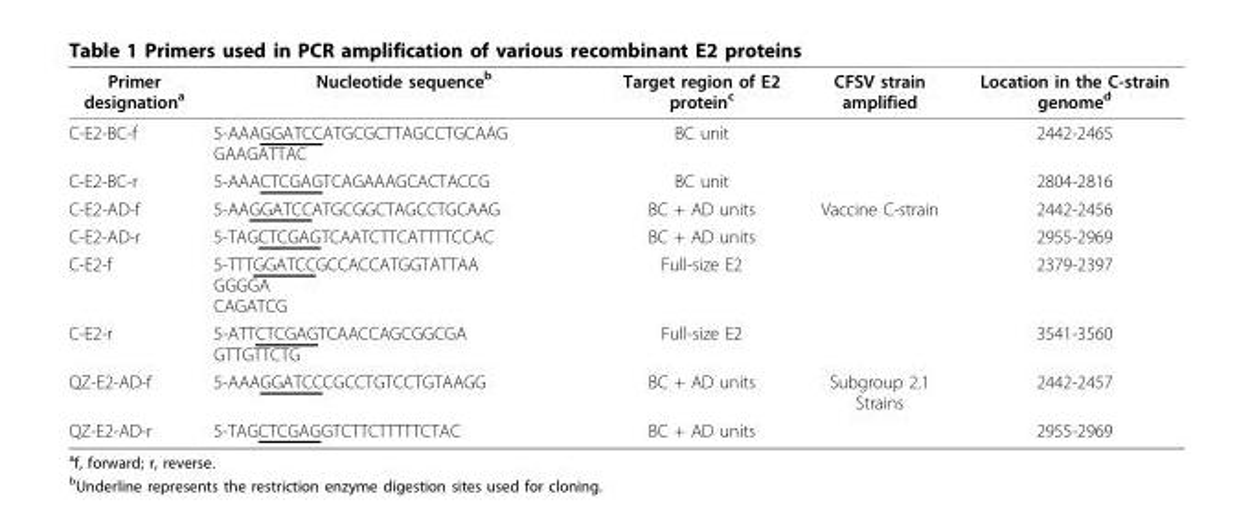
<table><thead><tr><td>Primer designation<sup>a</sup></td><td>Nucleotide sequence<sup>b</sup></td><td>Target region of E2 protein<sup>c</sup></td><td>CFSV strain amplified</td><td>Location in the C-strain genome<sup>d</sup></td></tr></thead><tbody><tr><td>C-E2-BC-f</td><td>5-AAAGGATCCATGCGCTTAGCCTGCAAG GAAGATTAC</td><td>BC unit</td><td></td><td>2442-2465</td></tr><tr><td>C-E2-BC-r</td><td>5-AAACTCGAGTCAGAAAGCACTACCG</td><td>BC unit</td><td></td><td>2804-2816</td></tr><tr><td>C-E2-AD-f</td><td>5-AAGGATCCATGCGGCTAGCCTGCAAG</td><td>BC + AD units</td><td>Vaccine C-strain</td><td>2442-2456</td></tr><tr><td>C-E2-AD-r</td><td>5-TAGCTCGAGTCAATCTTCATTTTCCAC</td><td>BC + AD units</td><td></td><td>2955-2969</td></tr><tr><td>C-E2-f</td><td>5-TTTGGATCCGCCACCATGGTATTAA GGGGA CAGATCG</td><td>Full-size E2</td><td></td><td>2379-2397</td></tr><tr><td>C-E2-r</td><td>5-ATTCTCGAGTCAACCAGCGGCGA GTTGTTCTG</td><td>Full-size E2</td><td></td><td>3541-3560</td></tr><tr><td>QZ-E2-AD-f</td><td>5-AAAGGATCCCGCCTGTCCTGTAAGG</td><td>BC + AD units</td><td>Subgroup 2.1 Strains</td><td>2442-2457</td></tr><tr><td>QZ-E2-AD-r</td><td>5-TAGCTCGAGGTCTTCTTTTTCTAC</td><td>BC + AD units</td><td></td><td>2955-2969</td></tr></tbody></table>